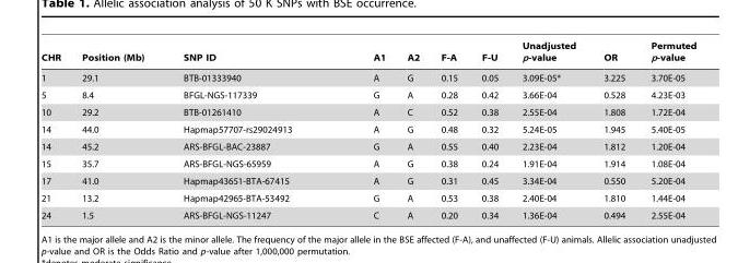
<table><thead><tr><td>CHR</td><td>Position (Mb)</td><td>SNP ID</td><td>A1</td><td>A2</td><td>F-A</td><td>F-U</td><td>Unadjusted p-value</td><td>OR</td><td>Permuted p-value</td></tr></thead><tbody><tr><td>1</td><td>29.1</td><td>BTB-01333940</td><td>A</td><td>G</td><td>0.15</td><td>0.05</td><td>3.09E-05*</td><td>3.225</td><td>3.70E-05</td></tr><tr><td>5</td><td>8.4</td><td>BFGL-NGS-117339</td><td>G</td><td>A</td><td>0.28</td><td>0.42</td><td>3.66E-04</td><td>0.528</td><td>4.23E-03</td></tr><tr><td>10</td><td>29.2</td><td>BTB-01261410</td><td>A</td><td>C</td><td>0.52</td><td>0.38</td><td>2.55E-04</td><td>1.808</td><td>1.72E-04</td></tr><tr><td>14</td><td>44.0</td><td>Hapmap57707-rs29024913</td><td>A</td><td>G</td><td>0.48</td><td>0.32</td><td>5.24E-05</td><td>1.945</td><td>5.40E-05</td></tr><tr><td>14</td><td>45.2</td><td>ARS-BFGL-BAC-23887</td><td>G</td><td>A</td><td>0.55</td><td>0.40</td><td>2.23E-04</td><td>1.812</td><td>1.20E-04</td></tr><tr><td>15</td><td>35.7</td><td>ARS-BFGL-NGS-65959</td><td>A</td><td>G</td><td>0.38</td><td>0.24</td><td>1.91E-04</td><td>1.914</td><td>1.08E-04</td></tr><tr><td>17</td><td>41.0</td><td>Hapmap43651-BTA-67415</td><td>A</td><td>G</td><td>0.31</td><td>0.45</td><td>3.34E-04</td><td>0.550</td><td>5.20E-04</td></tr><tr><td>21</td><td>13.2</td><td>Hapmap42965-BTA-53492</td><td>G</td><td>A</td><td>0.53</td><td>0.38</td><td>2.40E-04</td><td>1.810</td><td>1.44E-04</td></tr><tr><td>24</td><td>1.5</td><td>ARS-BFGL-NGS-11247</td><td>C</td><td>A</td><td>0.20</td><td>0.34</td><td>1.36E-04</td><td>0.494</td><td>2.55E-04</td></tr></tbody></table>